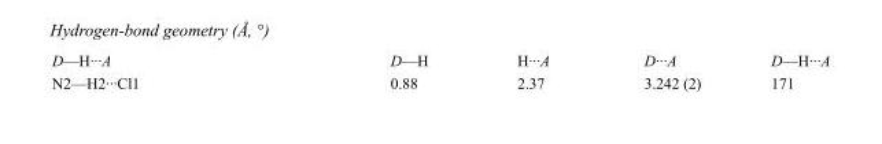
<table><tbody><tr><td>D—H···A</td><td>D—H</td><td>H···A</td><td>D···A</td><td>D—H···A</td></tr><tr><td>N2—H2···Cl1</td><td>0.88</td><td>2.37</td><td>3.242 (2)</td><td>171</td></tr></tbody></table>